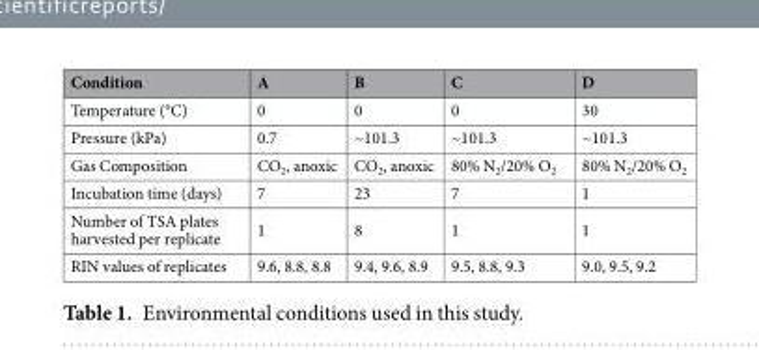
<table><thead><tr><td>Condition</td><td>A</td><td>B</td><td>C</td><td>D</td></tr></thead><tbody><tr><td>Temperature (°C)</td><td>0</td><td>0</td><td>0</td><td>30</td></tr><tr><td>Pressure (kPa)</td><td>0.7</td><td>~101.3</td><td>~101.3</td><td>~101.3</td></tr><tr><td>Gas Composition</td><td>CO<sub>2</sub>, anoxic</td><td>CO<sub>2</sub>, anoxic</td><td>80% N<sub>2</sub>/20% O<sub>2</sub></td><td>80% N<sub>2</sub>/20% O<sub>2</sub></td></tr><tr><td>Incubation time (days)</td><td>7</td><td>23</td><td>7</td><td>1</td></tr><tr><td>Number of TSA plates harvested per replicate</td><td>1</td><td>8</td><td>1</td><td>1</td></tr><tr><td>RIN values of replicates</td><td>9.6, 8.8, 8.8</td><td>9.4, 9.6, 8.9</td><td>9.5, 8.8, 9.3</td><td>9.0, 9.5, 9.2</td></tr></tbody></table>